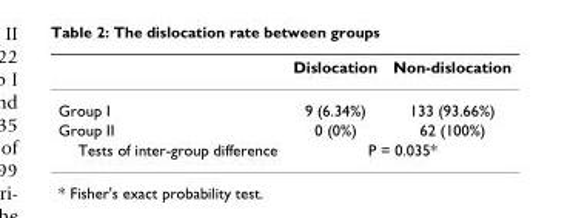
<table><thead><tr><td></td><td>Dislocation</td><td>Non-dislocation</td></tr></thead><tbody><tr><td>Group I</td><td>9 (6.34%)</td><td>133 (93.66%)</td></tr><tr><td>Group II</td><td>0 (0%)</td><td>62 (100%)</td></tr><tr><td>Tests of inter-group difference</td><td colspan="2">P = 0.035*</td></tr></tbody></table>